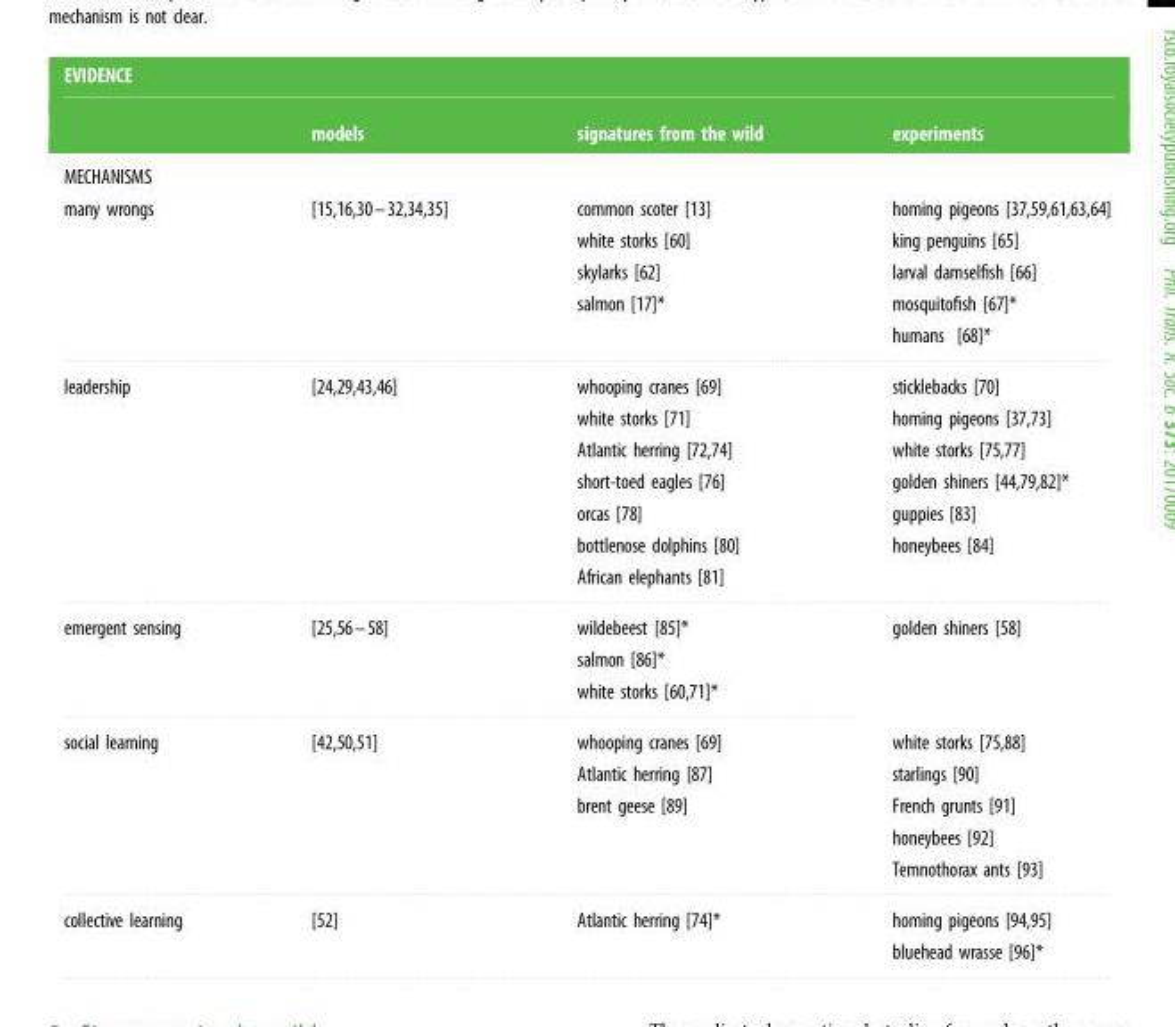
<table><thead><tr><td colspan="4">EVIDENCE</td></tr><tr><td></td><td>models</td><td>signatures from the wild</td><td>experiments</td></tr></thead><tbody><tr><td colspan="4">MECHANISMS</td></tr><tr><td rowspan="5">many wrongs</td><td>[15,16,30–32,34,35]</td><td>common scoter [13]</td><td>homing pigeons [37,59,61,63,64]</td></tr><tr><td></td><td>white storks [60]</td><td>king penguins [65]</td></tr><tr><td></td><td>skylarks [62]</td><td>larval damselfish [66]</td></tr><tr><td></td><td>salmon [17]*</td><td>mosquitofish [67]*</td></tr><tr><td></td><td></td><td>humans [68]*</td></tr><tr><td rowspan="7">leadership</td><td>[24,29,43,46]</td><td>whooping cranes [69]</td><td>sticklebacks [70]</td></tr><tr><td></td><td>white storks [71]</td><td>homing pigeons [37,73]</td></tr><tr><td></td><td>Atlantic herring [72,74]</td><td>white storks [75,77]</td></tr><tr><td></td><td>short-toed eagles [76]</td><td>golden shiners [44,79,82]*</td></tr><tr><td></td><td>orcas [78]</td><td>guppies [83]</td></tr><tr><td></td><td>bottlenose dolphins [80]</td><td>honeybees [84]</td></tr><tr><td></td><td>African elephants [81]</td><td></td></tr><tr><td rowspan="3">emergent sensing</td><td>[25,56–58]</td><td>wildebeest [85]*</td><td rowspan="3">golden shiners [58]</td></tr><tr><td></td><td>salmon [86]*</td></tr><tr><td></td><td>white storks [60,71]*</td></tr><tr><td rowspan="5">social learning</td><td>[42,50,51]</td><td>whooping cranes [69]</td><td>white storks [75,88]</td></tr><tr><td></td><td>Atlantic herring [87]</td><td>starlings [90]</td></tr><tr><td></td><td>brent geese [89]</td><td>French grunts [91]</td></tr><tr><td></td><td></td><td>honeybees [92]</td></tr><tr><td></td><td></td><td>Temnothorax ants [93]</td></tr><tr><td rowspan="2">collective learning</td><td rowspan="2">[52]</td><td rowspan="2">Atlantic herring [74]*</td><td>homing pigeons [94,95]</td></tr><tr><td>bluehead wrasse [96]*</td></tr></tbody></table>